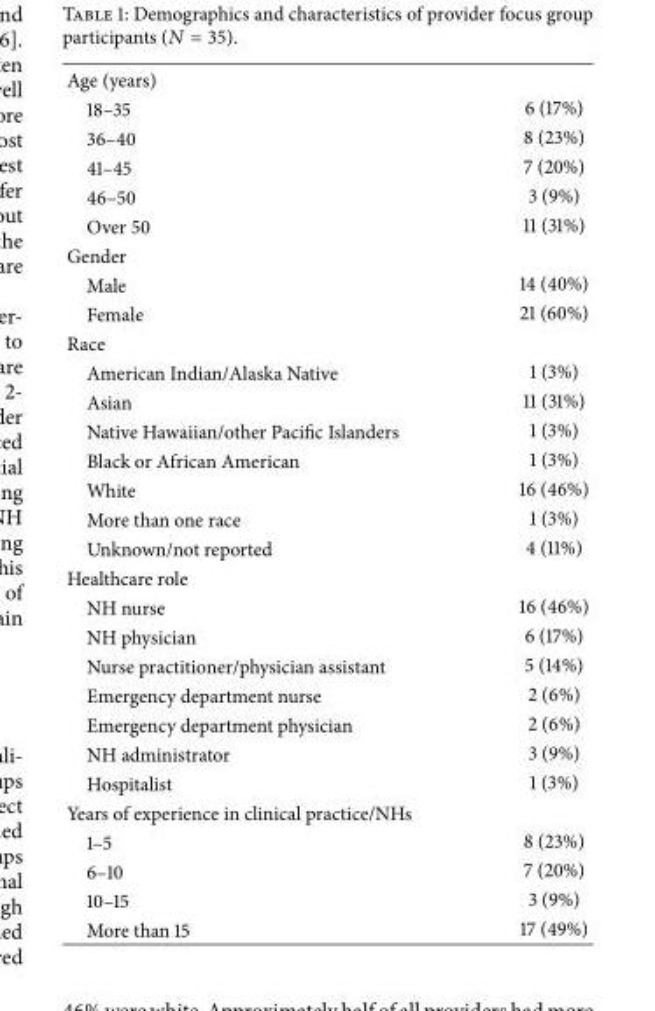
<table><tbody><tr><td colspan="2">Age (years)</td></tr><tr><td>18–35</td><td>6 (17%)</td></tr><tr><td>36–40</td><td>8 (23%)</td></tr><tr><td>41–45</td><td>7 (20%)</td></tr><tr><td>46–50</td><td>3 (9%)</td></tr><tr><td>Over 50</td><td>11 (31%)</td></tr><tr><td colspan="2">Gender</td></tr><tr><td>Male</td><td>14 (40%)</td></tr><tr><td>Female</td><td>21 (60%)</td></tr><tr><td colspan="2">Race</td></tr><tr><td>American Indian/Alaska Native</td><td>1 (3%)</td></tr><tr><td>Asian</td><td>11 (31%)</td></tr><tr><td>Native Hawaiian/other Pacific Islanders</td><td>1 (3%)</td></tr><tr><td>Black or African American</td><td>1 (3%)</td></tr><tr><td>White</td><td>16 (46%)</td></tr><tr><td>More than one race</td><td>1 (3%)</td></tr><tr><td>Unknown/not reported</td><td>4 (11%)</td></tr><tr><td colspan="2">Healthcare role</td></tr><tr><td>NH nurse</td><td>16 (46%)</td></tr><tr><td>NH physician</td><td>6 (17%)</td></tr><tr><td>Nurse practitioner/physician assistant</td><td>5 (14%)</td></tr><tr><td>Emergency department nurse</td><td>2 (6%)</td></tr><tr><td>Emergency department physician</td><td>2 (6%)</td></tr><tr><td>NH administrator</td><td>3 (9%)</td></tr><tr><td>Hospitalist</td><td>1 (3%)</td></tr><tr><td colspan="2">Years of experience in clinical practice/NHs</td></tr><tr><td>1–5</td><td>8 (23%)</td></tr><tr><td>6–10</td><td>7 (20%)</td></tr><tr><td>10–15</td><td>3 (9%)</td></tr><tr><td>More than 15</td><td>17 (49%)</td></tr></tbody></table>